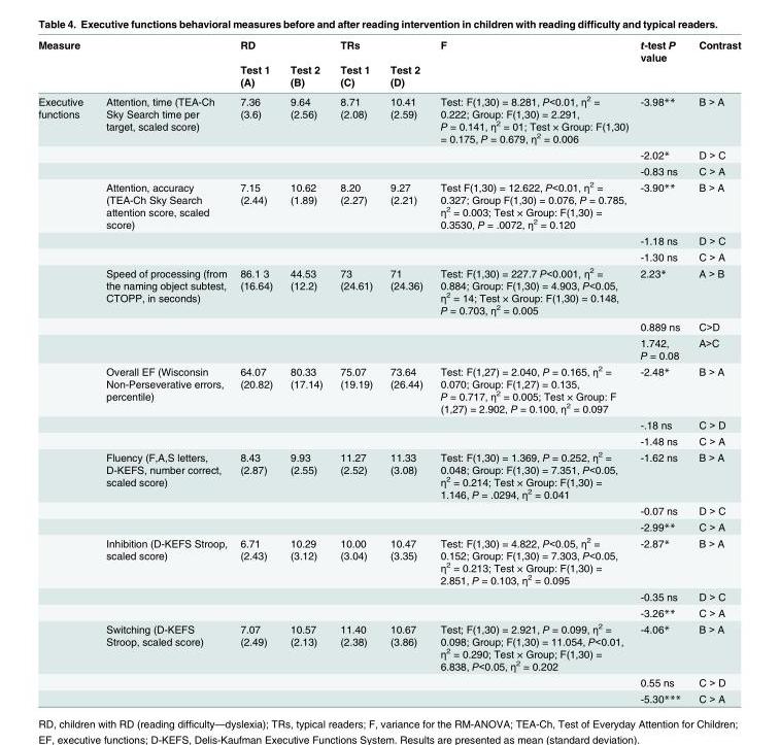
<table><thead><tr><td rowspan="2">Measure</td><td rowspan="2"></td><td rowspan="2">RD Test 1 (A)</td><td rowspan="2">Test 2 (B)</td><td rowspan="2">TRs Test 1 (C)</td><td rowspan="2">Test 2 (D)</td><td rowspan="2">F</td><td rowspan="2">t-test P value</td><td rowspan="2">Contrast</td></tr><tr></tr></thead><tbody><tr><td rowspan="21">Executive functions</td><td>Attention, time (TEA-Ch Sky Search time per target, scaled score)</td><td>7.36 (3.6)</td><td>9.64 (2.56)</td><td>8.71 (2.08)</td><td>10.41 (2.59)</td><td>Test: F(1,30) = 8.281, P&lt;0.01, η<sup>2</sup> = 0.222; Group: F(1,30) = 2.291, P = 0.141, η<sup>2</sup> = 01; Test × Group: F(1,30) = 0.175, P = 0.679, η<sup>2</sup> = 0.006</td><td>-3.98**</td><td>B &gt; A</td></tr><tr><td></td><td></td><td></td><td></td><td></td><td></td><td>-2.02*</td><td>D &gt; C</td></tr><tr><td></td><td></td><td></td><td></td><td></td><td></td><td>-0.83 ns</td><td>C &gt; A</td></tr><tr><td>Attention, accuracy (TEA-Ch Sky Search attention score, scaled score)</td><td>7.15 (2.44)</td><td>10.62 (1.89)</td><td>8.20 (2.27)</td><td>9.27 (2.21)</td><td>Test F(1,30) = 12.622, P&lt;0.01, η<sup>2</sup> = 0.327; Group F(1,30) = 0.076, P = 0.785, η<sup>2</sup> = 0.003; Test × Group: F(1,30) = 0.3530, P = .0072, η<sup>2</sup> = 0.120</td><td>-3.90**</td><td>B &gt; A</td></tr><tr><td></td><td></td><td></td><td></td><td></td><td></td><td>-1.18 ns</td><td>D &gt; C</td></tr><tr><td></td><td></td><td></td><td></td><td></td><td></td><td>-1.30 ns</td><td>C &gt; A</td></tr><tr><td>Speed of processing (from the naming object subtest, CTOPP, in seconds)</td><td>86.1 3 (16.64)</td><td>44.53 (12.2)</td><td>73 (24.61)</td><td>71 (24.36)</td><td>Test: F(1,30) = 227.7 P&lt;0.001, η<sup>2</sup> = 0.884; Group: F(1,30) = 4.903, P&lt;0.05, η<sup>2</sup> = 14; Test × Group: F(1,30) = 0.148, P = 0.703, η<sup>2</sup> = 0.005</td><td>2.23*</td><td>A &gt; B</td></tr><tr><td></td><td></td><td></td><td></td><td></td><td></td><td>0.889 ns</td><td>C&gt;D</td></tr><tr><td></td><td></td><td></td><td></td><td></td><td></td><td>1.742, P = 0.08</td><td>A&gt;C</td></tr><tr><td>Overall EF (Wisconsin Non-Perseverative errors, percentile)</td><td>64.07 (20.82)</td><td>80.33 (17.14)</td><td>75.07 (19.19)</td><td>73.64 (26.44)</td><td>Test: F(1,27) = 2.040, P = 0.165, η<sup>2</sup> = 0.070; Group: F(1,27) = 0.135, P = 0.717, η<sup>2</sup> = 0.005; Test × Group: F (1,27) = 2.902, P = 0.100, η<sup>2</sup> = 0.097</td><td>-2.48*</td><td>B &gt; A</td></tr><tr><td></td><td></td><td></td><td></td><td></td><td></td><td>-.18 ns</td><td>C &gt; D</td></tr><tr><td></td><td></td><td></td><td></td><td></td><td></td><td>-1.48 ns</td><td>C &gt; A</td></tr><tr><td>Fluency (F,A,S letters, D-KEFS, number correct, scaled score)</td><td>8.43 (2.87)</td><td>9.93 (2.55)</td><td>11.27 (2.52)</td><td>11.33 (3.08)</td><td>Test: F(1,30) = 1.369, P = 0.252, η<sup>2</sup> = 0.048; Group: F(1,30) = 7.351, P&lt;0.05, η<sup>2</sup> = 0.214; Test × Group: F(1,30) = 1.146, P = .0294, η<sup>2</sup> = 0.041</td><td>-1.62 ns</td><td>B &gt; A</td></tr><tr><td></td><td></td><td></td><td></td><td></td><td></td><td>-0.07 ns</td><td>D &gt; C</td></tr><tr><td></td><td></td><td></td><td></td><td></td><td></td><td>-2.99**</td><td>C &gt; A</td></tr><tr><td>Inhibition (D-KEFS Stroop, scaled score)</td><td>6.71 (2.43)</td><td>10.29 (3.12)</td><td>10.00 (3.04)</td><td>10.47 (3.35)</td><td>Test: F(1,30) = 4.822, P&lt;0.05, η<sup>2</sup> = 0.152; Group: F(1,30) = 7.303, P&lt;0.05, η<sup>2</sup> = 0.213; Test × Group: F(1,30) = 2.851, P = 0.103, η<sup>2</sup> = 0.095</td><td>-2.87*</td><td>B &gt; A</td></tr><tr><td></td><td></td><td></td><td></td><td></td><td></td><td>-0.35 ns</td><td>D &gt; C</td></tr><tr><td></td><td></td><td></td><td></td><td></td><td></td><td>-3.26**</td><td>C &gt; A</td></tr><tr><td>Switching (D-KEFS Stroop, scaled score)</td><td>7.07 (2.49)</td><td>10.57 (2.13)</td><td>11.40 (2.38)</td><td>10.67 (3.86)</td><td>Test; F(1,30) = 2.921, P = 0.099, η<sup>2</sup> = 0.098; Group; F(1,30) = 11.054, P&lt;0.01, η<sup>2</sup> = 0.290; Test × Group; F(1,30) = 6.838, P&lt;0.05, η<sup>2</sup> = 0.202</td><td>-4.06*</td><td>B &gt; A</td></tr><tr><td></td><td></td><td></td><td></td><td></td><td></td><td>0.55 ns</td><td>C &gt; D</td></tr><tr><td></td><td></td><td></td><td></td><td></td><td></td><td>-5.30***</td><td>C &gt; A</td></tr></tbody></table>